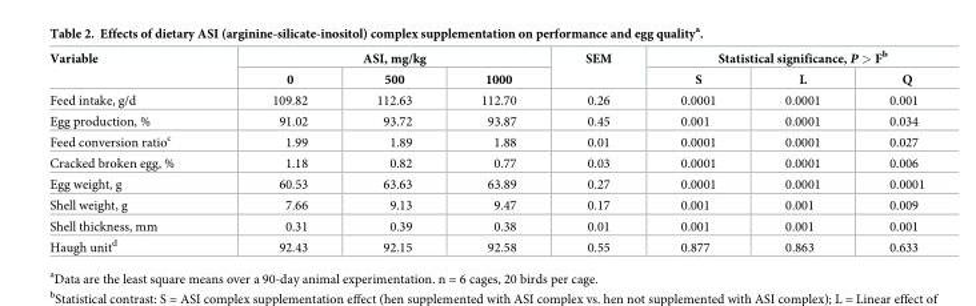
<table><thead><tr><td rowspan="2">Variable</td><td colspan="3">ASI, mg/kg</td><td rowspan="2">SEM</td><td colspan="3">Statistical significance, P &gt; F<sup>b</sup></td></tr><tr><td>0</td><td>500</td><td>1000</td><td>S</td><td>L</td><td>Q</td></tr></thead><tbody><tr><td>Feed intake, g/d</td><td>109.82</td><td>112.63</td><td>112.70</td><td>0.26</td><td>0.0001</td><td>0.0001</td><td>0.001</td></tr><tr><td>Egg production, %</td><td>91.02</td><td>93.72</td><td>93.87</td><td>0.45</td><td>0.001</td><td>0.0001</td><td>0.034</td></tr><tr><td>Feed conversion ratio<sup>c</sup></td><td>1.99</td><td>1.89</td><td>1.88</td><td>0.01</td><td>0.0001</td><td>0.0001</td><td>0.027</td></tr><tr><td>Cracked broken egg, %</td><td>1.18</td><td>0.82</td><td>0.77</td><td>0.03</td><td>0.0001</td><td>0.0001</td><td>0.006</td></tr><tr><td>Egg weight, g</td><td>60.53</td><td>63.63</td><td>63.89</td><td>0.27</td><td>0.0001</td><td>0.0001</td><td>0.0001</td></tr><tr><td>Shell weight, g</td><td>7.66</td><td>9.13</td><td>9.47</td><td>0.17</td><td>0.001</td><td>0.001</td><td>0.009</td></tr><tr><td>Shell thickness, mm</td><td>0.31</td><td>0.39</td><td>0.38</td><td>0.01</td><td>0.001</td><td>0.001</td><td>0.001</td></tr><tr><td>Haugh unit<sup>d</sup></td><td>92.43</td><td>92.15</td><td>92.58</td><td>0.55</td><td>0.877</td><td>0.863</td><td>0.633</td></tr></tbody></table>